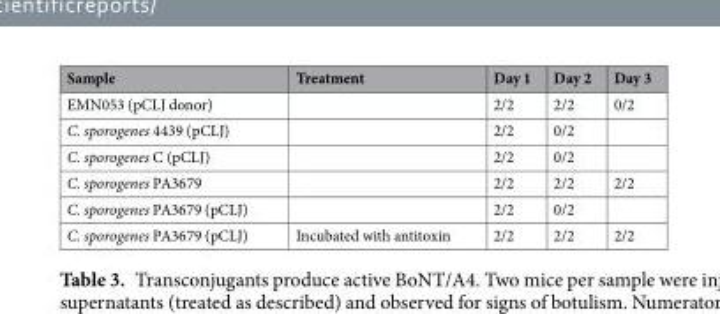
<table><thead><tr><td>Sample</td><td>Treatment</td><td>Day 1</td><td>Day 2</td><td>Day 3</td></tr></thead><tbody><tr><td>EMN053 (pCLJ donor)</td><td></td><td>2/2</td><td>2/2</td><td>0/2</td></tr><tr><td>C. sporogenes 4439 (pCLJ)</td><td></td><td>2/2</td><td>0/2</td><td></td></tr><tr><td>C. sporogenes C (pCLJ)</td><td></td><td>2/2</td><td>0/2</td><td></td></tr><tr><td>C. sporogenes PA3679</td><td></td><td>2/2</td><td>2/2</td><td>2/2</td></tr><tr><td>C. sporogenes PA3679 (pCLJ)</td><td></td><td>2/2</td><td>0/2</td><td></td></tr><tr><td>C. sporogenes PA3679 (pCLJ)</td><td>Incubated with antitoxin</td><td>2/2</td><td>2/2</td><td>2/2</td></tr></tbody></table>